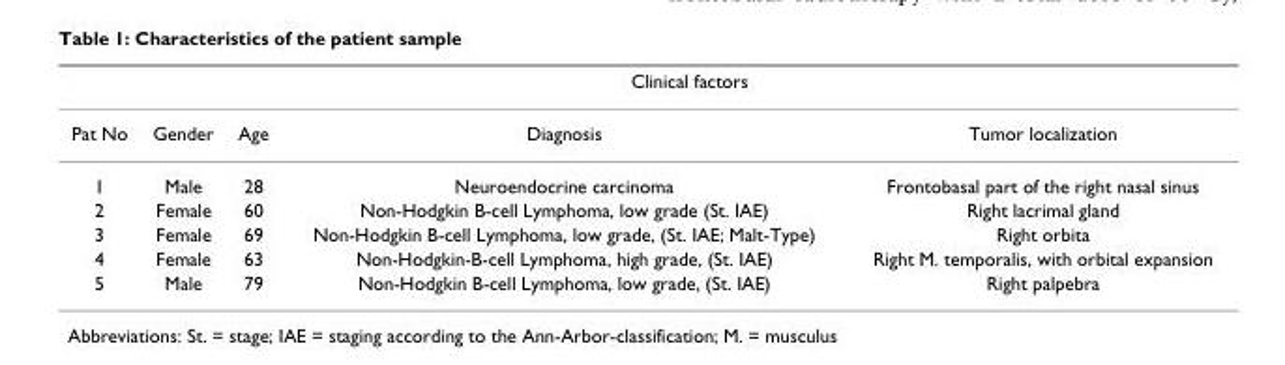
<table><thead><tr><td rowspan="2">Pat No</td><td colspan="4">Clinical factors</td></tr><tr><td>Gender</td><td>Age</td><td>Diagnosis</td><td>Tumor localization</td></tr></thead><tbody><tr><td>1</td><td>Male</td><td>28</td><td>Neuroendocrine carcinoma</td><td>Frontobasal part of the right nasal sinus</td></tr><tr><td>2</td><td>Female</td><td>60</td><td>Non-Hodgkin B-cell Lymphoma, low grade (St. IAE)</td><td>Right lacrimal gland</td></tr><tr><td>3</td><td>Female</td><td>69</td><td>Non-Hodgkin B-cell Lymphoma, low grade, (St. IAE; Malt-Type)</td><td>Right orbita</td></tr><tr><td>4</td><td>Female</td><td>63</td><td>Non-Hodgkin-B-cell Lymphoma, high grade, (St. IAE)</td><td>Right M. temporalis, with orbital expansion</td></tr><tr><td>5</td><td>Male</td><td>79</td><td>Non-Hodgkin B-cell Lymphoma, low grade, (St. IAE)</td><td>Right palpebra</td></tr></tbody></table>